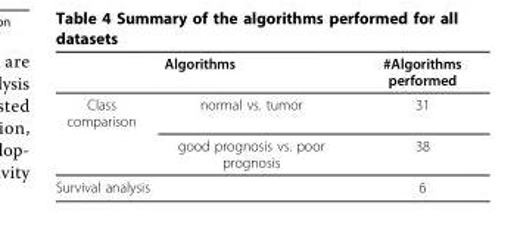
<table><thead><tr><td colspan="2">Algorithms</td><td rowspan="2">#Algorithms performed 31</td></tr><tr><td>Class comparison</td><td>normal vs. tumor</td></tr></thead><tbody><tr><td></td><td>good prognosis vs. poor prognosis</td><td>38</td></tr><tr><td colspan="2">Survival analysis</td><td>6</td></tr></tbody></table>